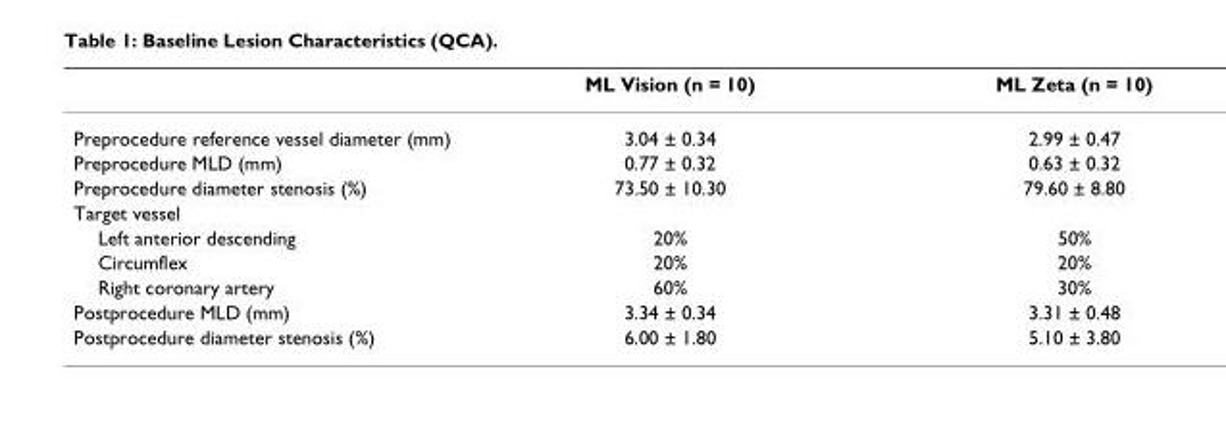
<table><thead><tr><td></td><td>ML Vision (n = 10)</td><td>ML Zeta (n = 10)</td></tr></thead><tbody><tr><td>Preprocedure reference vessel diameter (mm)</td><td>3.04 ± 0.34</td><td>2.99 ± 0.47</td></tr><tr><td>Preprocedure MLD (mm)</td><td>0.77 ± 0.32</td><td>0.63 ± 0.32</td></tr><tr><td>Preprocedure diameter stenosis (%)</td><td>73.50 ± 10.30</td><td>79.60 ± 8.80</td></tr><tr><td colspan="3">Target vessel</td></tr><tr><td>Left anterior descending</td><td>20%</td><td>50%</td></tr><tr><td>Circumflex</td><td>20%</td><td>20%</td></tr><tr><td>Right coronary artery</td><td>60%</td><td>30%</td></tr><tr><td>Postprocedure MLD (mm)</td><td>3.34 ± 0.34</td><td>3.31 ± 0.48</td></tr><tr><td>Postprocedure diameter stenosis (%)</td><td>6.00 ± 1.80</td><td>5.10 ± 3.80</td></tr></tbody></table>